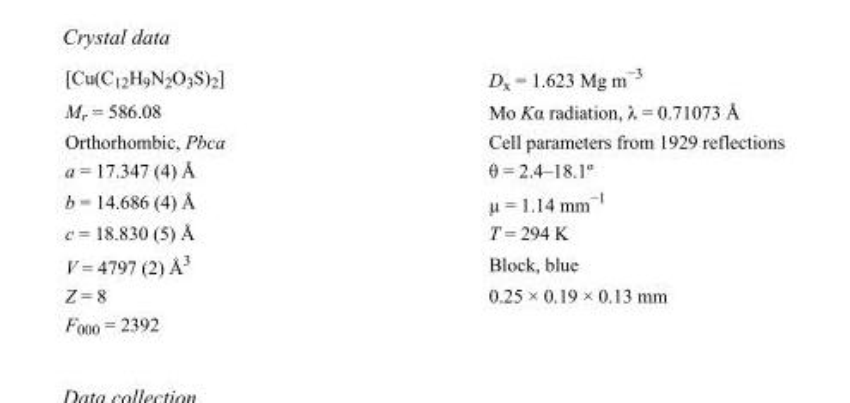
<table><tbody><tr><td>[Cu(C<sub>12</sub>H<sub>9</sub>N<sub>2</sub>O<sub>3</sub>S)<sub>2</sub>]</td><td>D<sub>x</sub> = 1.623 Mg m<sup>−3</sup></td></tr><tr><td>M<sub>r</sub> = 586.08</td><td>Mo Kα radiation, λ = 0.71073 Å</td></tr><tr><td>Orthorhombic, Pbca</td><td>Cell parameters from 1929 reflections</td></tr><tr><td>a = 17.347 (4) Å</td><td>θ = 2.4–18.1º</td></tr><tr><td>b = 14.686 (4) Å</td><td>µ = 1.14 mm<sup>−1</sup></td></tr><tr><td>c = 18.830 (5) Å</td><td>T = 294 K</td></tr><tr><td>V = 4797 (2) Å<sup>3</sup></td><td>Block, blue</td></tr><tr><td>Z = 8</td><td>0.25 × 0.19 × 0.13 mm</td></tr><tr><td>F000 = 2392</td><td></td></tr></tbody></table>